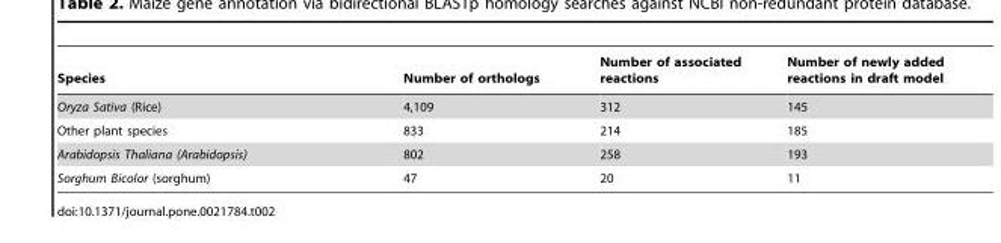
<table><thead><tr><td>Species</td><td>Number of orthologs</td><td>Number of associated reactions</td><td>Number of newly added reactions in draft model</td></tr></thead><tbody><tr><td>Oryza Sativa (Rice)</td><td>4,109</td><td>312</td><td>145</td></tr><tr><td>Other plant species</td><td>833</td><td>214</td><td>185</td></tr><tr><td>Arabidopsis Thaliana (Arabidopsis)</td><td>802</td><td>258</td><td>193</td></tr><tr><td>Sorghum Bicolor (sorghum)</td><td>47</td><td>20</td><td>11</td></tr></tbody></table>